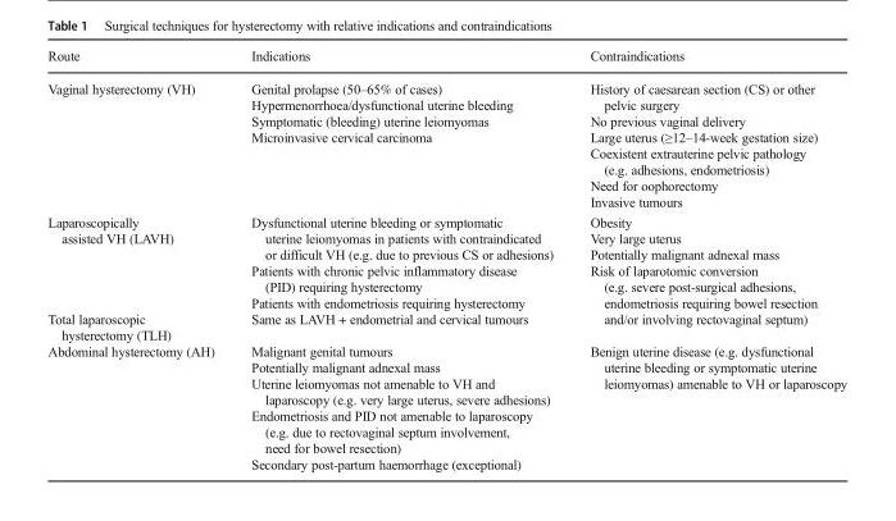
<table><thead><tr><td>Route</td><td>Indications</td><td>Contraindications</td></tr></thead><tbody><tr><td>Vaginal hysterectomy (VH)</td><td>Genital prolapse (50–65% of cases) Hypermenorrhoea/dysfunctional uterine bleeding Symptomatic (bleeding) uterine leiomyomas Microinvasive cervical carcinoma</td><td>History of caesarean section (CS) or other pelvic surgery No previous vaginal delivery Large uterus (≥12–14-week gestation size) Coexistent extrauterine pelvic pathology (e.g. adhesions, endometriosis) Need for oophorectomy Invasive tumours</td></tr><tr><td>Laparoscopically assisted VH (LAVH)</td><td>Dysfunctional uterine bleeding or symptomatic uterine leiomyomas in patients with contraindicated or difficult VH (e.g. due to previous CS or adhesions) Patients with chronic pelvic inflammatory disease (PID) requiring hysterectomy Patients with endometriosis requiring hysterectomy</td><td rowspan="2">Obesity Very large uterus Potentially malignant adnexal mass Risk of laparotomic conversion (e.g. severe post-surgical adhesions, endometriosis requiring bowel resection and/or involving rectovaginal septum)</td></tr><tr><td>Total laparoscopic hysterectomy (TLH)</td><td>Same as LAVH + endometrial and cervical tumours</td></tr><tr><td>Abdominal hysterectomy (AH)</td><td>Malignant genital tumours Potentially malignant adnexal mass Uterine leiomyomas not amenable to VH and laparoscopy (e.g. very large uterus, severe adhesions) Endometriosis and PID not amenable to laparoscopy (e.g. due to rectovaginal septum involvement, need for bowel resection) Secondary post-partum haemorrhage (exceptional)</td><td>Benign uterine disease (e.g. dysfunctional uterine bleeding or symptomatic uterine leiomyomas) amenable to VH or laparoscopy</td></tr></tbody></table>